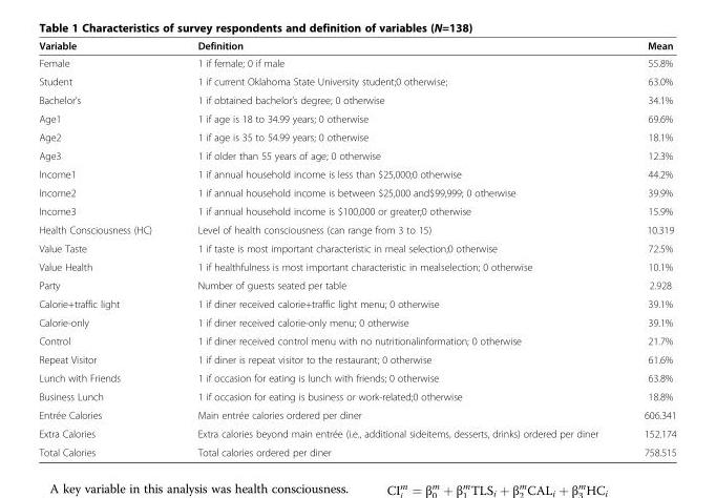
<table><thead><tr><td>Variable</td><td>Definition</td><td>Mean</td></tr></thead><tbody><tr><td>Female</td><td>1 if female; 0 if male</td><td>55.8%</td></tr><tr><td>Student</td><td>1 if current Oklahoma State University student;0 otherwise;</td><td>63.0%</td></tr><tr><td>Bachelor’s</td><td>1 if obtained bachelor’s degree; 0 otherwise</td><td>34.1%</td></tr><tr><td>Age1</td><td>1 if age is 18 to 34.99 years; 0 otherwise</td><td>69.6%</td></tr><tr><td>Age2</td><td>1 if age is 35 to 54.99 years; 0 otherwise</td><td>18.1%</td></tr><tr><td>Age3</td><td>1 if older than 55 years of age; 0 otherwise</td><td>12.3%</td></tr><tr><td>Income1</td><td>1 if annual household income is less than $25,000;0 otherwise</td><td>44.2%</td></tr><tr><td>Income2</td><td>1 if annual household income is between $25,000 and$99,999; 0 otherwise</td><td>39.9%</td></tr><tr><td>Income3</td><td>1 if annual household income is $100,000 or greater;0 otherwise</td><td>15.9%</td></tr><tr><td>Health Consciousness (HC)</td><td>Level of health consciousness (can range from 3 to 15)</td><td>10.319</td></tr><tr><td>Value Taste</td><td>1 if taste is most important characteristic in meal selection;0 otherwise</td><td>72.5%</td></tr><tr><td>Value Health</td><td>1 if healthfulness is most important characteristic in mealselection; 0 otherwise</td><td>10.1%</td></tr><tr><td>Party</td><td>Number of guests seated per table</td><td>2.928</td></tr><tr><td>Calorie+traffic light</td><td>1 if diner received calorie+traffic light menu; 0 otherwise</td><td>39.1%</td></tr><tr><td>Calorie-only</td><td>1 if diner received calorie-only menu; 0 otherwise</td><td>39.1%</td></tr><tr><td>Control</td><td>1 if diner received control menu with no nutritionalinformation; 0 otherwise</td><td>21.7%</td></tr><tr><td>Repeat Visitor</td><td>1 if diner is repeat visitor to the restaurant; 0 otherwise</td><td>61.6%</td></tr><tr><td>Lunch with Friends</td><td>1 if occasion for eating is lunch with friends; 0 otherwise</td><td>63.8%</td></tr><tr><td>Business Lunch</td><td>1 if occasion for eating is business or work-related;0 otherwise</td><td>18.8%</td></tr><tr><td>Entrée Calories</td><td>Main entrée calories ordered per diner</td><td>606.341</td></tr><tr><td>Extra Calories</td><td>Extra calories beyond main entrée (i.e., additional sideitems, desserts, drinks) ordered per diner</td><td>152.174</td></tr><tr><td>Total Calories</td><td>Total calories ordered per diner</td><td>758.515</td></tr></tbody></table>